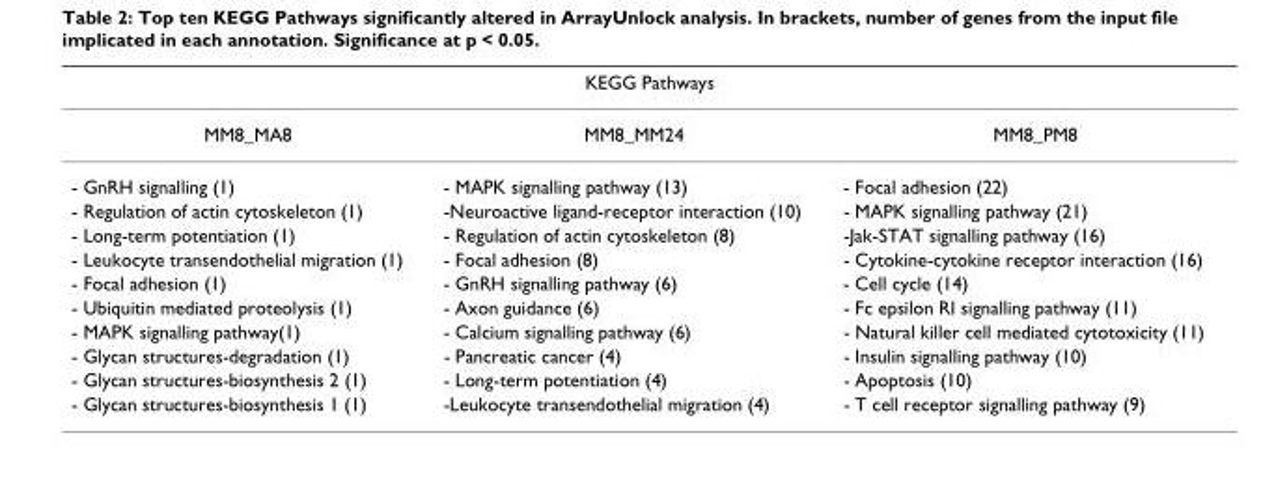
<table><thead><tr><td colspan="3">KEGG Pathways</td></tr><tr><td>MM8_MA8</td><td>MM8_MM24</td><td>MM8_PM8</td></tr></thead><tbody><tr><td>- GnRH signalling (1)</td><td>- MAPK signalling pathway (13)</td><td>- Focal adhesion (22)</td></tr><tr><td>- Regulation of actin cytoskeleton (1)</td><td>-Neuroactive ligand-receptor interaction (10)</td><td>- MAPK signalling pathway (21)</td></tr><tr><td>- Long-term potentiation (1)</td><td>- Regulation of actin cytoskeleton (8)</td><td>-Jak-STAT signalling pathway (16)</td></tr><tr><td>- Leukocyte transendothelial migration (1)</td><td>- Focal adhesion (8)</td><td>- Cytokine-cytokine receptor interaction (16)</td></tr><tr><td>- Focal adhesion (1)</td><td>- GnRH signalling pathway (6)</td><td>- Cell cycle (14)</td></tr><tr><td>- Ubiquitin mediated proteolysis (1)</td><td>- Axon guidance (6)</td><td>- Fc epsilon RI signalling pathway (11)</td></tr><tr><td>- MAPK signalling pathway(1)</td><td>- Calcium signalling pathway (6)</td><td>- Natural killer cell mediated cytotoxicity (11)</td></tr><tr><td>- Glycan structures-degradation (1)</td><td>- Pancreatic cancer (4)</td><td>- Insulin signalling pathway (10)</td></tr><tr><td>- Glycan structures-biosynthesis 2 (1)</td><td>- Long-term potentiation (4)</td><td>- Apoptosis (10)</td></tr><tr><td>- Glycan structures-biosynthesis 1 (1)</td><td>-Leukocyte transendothelial migration (4)</td><td>- T cell receptor signalling pathway (9)</td></tr></tbody></table>